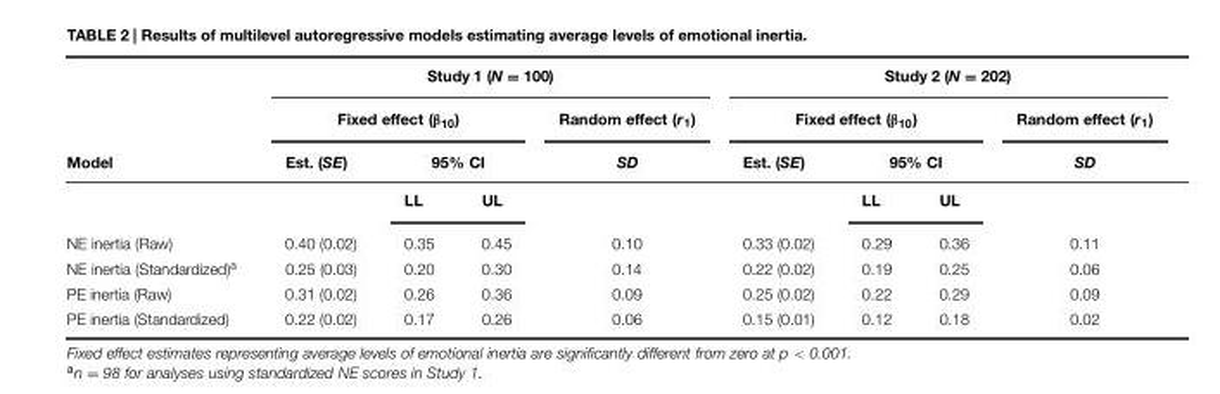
<table><thead><tr><td rowspan="4">Model</td><td colspan="4">Study 1 (N = 100)</td><td colspan="4">Study 2 (N = 202)</td></tr><tr><td colspan="3">Fixed effect (β<sub>10</sub>)</td><td rowspan="3">Random effect (r<sub>1</sub>) SD</td><td colspan="3">Fixed effect (β<sub>10</sub>)</td><td rowspan="3">Random effect (r<sub>1</sub>) SD</td></tr><tr><td rowspan="2">Est. (SE)</td><td colspan="2">95% CI</td><td rowspan="2">Est. (SE)</td><td colspan="2">95% CI</td></tr><tr><td>LL</td><td>UL</td><td>LL</td><td>UL</td></tr></thead><tbody><tr><td>NE inertia (Raw)</td><td>0.40 (0.02)</td><td>0.35</td><td>0.45</td><td>0.10</td><td>0.33 (0.02)</td><td>0.29</td><td>0.36</td><td>0.11</td></tr><tr><td>NE inertia (Standardized)<sup>a</sup></td><td>0.25 (0.03)</td><td>0.20</td><td>0.30</td><td>0.14</td><td>0.22 (0.02)</td><td>0.19</td><td>0.25</td><td>0.06</td></tr><tr><td>PE inertia (Raw)</td><td>0.31 (0.02)</td><td>0.26</td><td>0.36</td><td>0.09</td><td>0.25 (0.02)</td><td>0.22</td><td>0.29</td><td>0.09</td></tr><tr><td>PE inertia (Standardized)</td><td>0.22 (0.02)</td><td>0.17</td><td>0.26</td><td>0.06</td><td>0.15 (0.01)</td><td>0.12</td><td>0.18</td><td>0.02</td></tr></tbody></table>